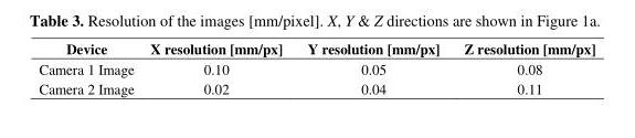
<table><thead><tr><td>Device</td><td>X resolution [mm/px]</td><td>Y resolution [mm/px]</td><td>Z resolution [mm/px]</td></tr></thead><tbody><tr><td>Camera 1 Image</td><td>0.10</td><td>0.05</td><td>0.08</td></tr><tr><td>Camera 2 Image</td><td>0.02</td><td>0.04</td><td>0.11</td></tr></tbody></table>